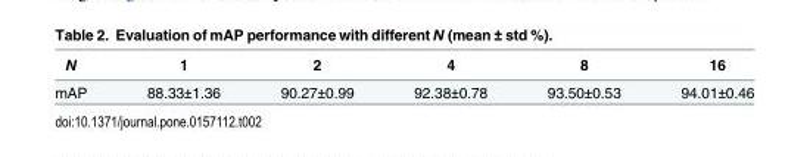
<table><thead><tr><td>N</td><td>1</td><td>2</td><td>4</td><td>8</td><td>16</td></tr></thead><tbody><tr><td>mAP</td><td>88.33±1.36</td><td>90.27±0.99</td><td>92.38±0.78</td><td>93.50±0.53</td><td>94.01±0.46</td></tr></tbody></table>